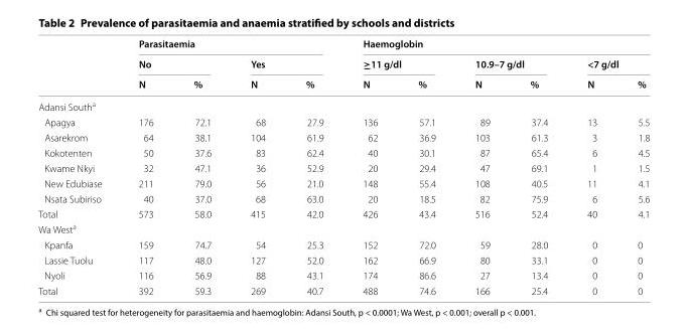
<table><thead><tr><td rowspan="3"></td><td colspan="4">Parasitaemia</td><td colspan="6">Haemoglobin</td></tr><tr><td colspan="2">No</td><td colspan="2">Yes</td><td colspan="2">≥11 g/dl</td><td colspan="2">10.9–7 g/dl</td><td colspan="2">&lt;7 g/dl</td></tr><tr><td>N</td><td>%</td><td>N</td><td>%</td><td>N</td><td>%</td><td>N</td><td>%</td><td>N</td><td>%</td></tr></thead><tbody><tr><td colspan="11">Adansi South<sup>a</sup></td></tr><tr><td>Apagya</td><td>176</td><td>72.1</td><td>68</td><td>27.9</td><td>136</td><td>57.1</td><td>89</td><td>37.4</td><td>13</td><td>5.5</td></tr><tr><td>Asarekrom</td><td>64</td><td>38.1</td><td>104</td><td>61.9</td><td>62</td><td>36.9</td><td>103</td><td>61.3</td><td>3</td><td>1.8</td></tr><tr><td>Kokotenten</td><td>50</td><td>37.6</td><td>83</td><td>62.4</td><td>40</td><td>30.1</td><td>87</td><td>65.4</td><td>6</td><td>4.5</td></tr><tr><td>Kwame Nkyi</td><td>32</td><td>47.1</td><td>36</td><td>52.9</td><td>20</td><td>29.4</td><td>47</td><td>69.1</td><td>1</td><td>1.5</td></tr><tr><td>New Edubiase</td><td>211</td><td>79.0</td><td>56</td><td>21.0</td><td>148</td><td>55.4</td><td>108</td><td>40.5</td><td>11</td><td>4.1</td></tr><tr><td>Nsata Subiriso</td><td>40</td><td>37.0</td><td>68</td><td>63.0</td><td>20</td><td>18.5</td><td>82</td><td>75.9</td><td>6</td><td>5.6</td></tr><tr><td>Total</td><td>573</td><td>58.0</td><td>415</td><td>42.0</td><td>426</td><td>43.4</td><td>516</td><td>52.4</td><td>40</td><td>4.1</td></tr><tr><td colspan="11">Wa West<sup>a</sup></td></tr><tr><td>Kpanfa</td><td>159</td><td>74.7</td><td>54</td><td>25.3</td><td>152</td><td>72.0</td><td>59</td><td>28.0</td><td>0</td><td>0</td></tr><tr><td>Lassie Tuolu</td><td>117</td><td>48.0</td><td>127</td><td>52.0</td><td>162</td><td>66.9</td><td>80</td><td>33.1</td><td>0</td><td>0</td></tr><tr><td>Nyoli</td><td>116</td><td>56.9</td><td>88</td><td>43.1</td><td>174</td><td>86.6</td><td>27</td><td>13.4</td><td>0</td><td>0</td></tr><tr><td>Total</td><td>392</td><td>59.3</td><td>269</td><td>40.7</td><td>488</td><td>74.6</td><td>166</td><td>25.4</td><td>0</td><td>0</td></tr></tbody></table>